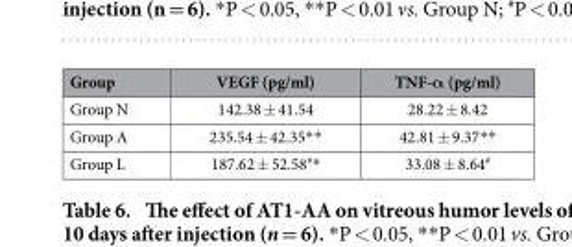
<table><thead><tr><td>Group</td><td>VEGF (pg/ml)</td><td>TNF-α (pg/ml)</td></tr></thead><tbody><tr><td>Group N</td><td>142.38 ± 41.54</td><td>28.22 ± 8.42</td></tr><tr><td>Group A</td><td>235.54 ± 42.35**</td><td>42.81 ± 9.37**</td></tr><tr><td>Group L</td><td>187.62 ± 52.58#*</td><td>33.08 ± 8.64#</td></tr></tbody></table>